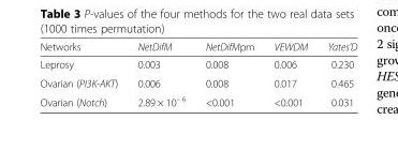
<table><thead><tr><td>Networks</td><td>NetDifM</td><td>NetDifMpm</td><td>VEWDM</td><td>Yates’D</td></tr></thead><tbody><tr><td>Leprosy</td><td>0.003</td><td>0.008</td><td>0.006</td><td>0.230</td></tr><tr><td>Ovarian (PI3K-AKT)</td><td>0.006</td><td>0.008</td><td>0.017</td><td>0.465</td></tr><tr><td>Ovarian (Notch)</td><td>2.89 × 10<sup>– 6</sup></td><td>&lt;0.001</td><td>&lt;0.001</td><td>0.031</td></tr></tbody></table>